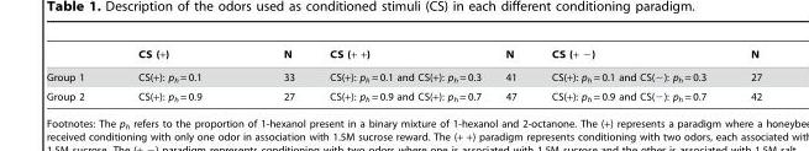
<table><thead><tr><td></td><td>CS (+)</td><td>N</td><td>CS (+ +)</td><td>N</td><td>CS (+ −)</td><td>N</td></tr></thead><tbody><tr><td>Group 1</td><td>CS(+): p<sub>h</sub> = 0.1</td><td>33</td><td>CS(+): p<sub>h</sub> = 0.1 and CS(+): p<sub>h</sub> = 0.3</td><td>41</td><td>CS(+): p<sub>h</sub> = 0.1 and CS(−): p<sub>h</sub> = 0.3</td><td>27</td></tr><tr><td>Group 2</td><td>CS(+): p<sub>h</sub> = 0.9</td><td>27</td><td>CS(+): p<sub>h</sub> = 0.9 and CS(+): p<sub>h</sub> = 0.7</td><td>47</td><td>CS(+): p<sub>h</sub> = 0.9 and CS(−): p<sub>h</sub> = 0.7</td><td>42</td></tr></tbody></table>